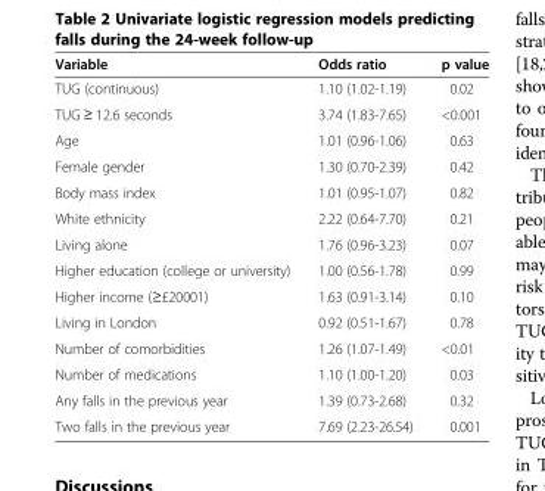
<table><thead><tr><td>Variable</td><td>Odds ratio</td><td>p value</td></tr></thead><tbody><tr><td>TUG (continuous)</td><td>1.10 (1.02-1.19)</td><td>0.02</td></tr><tr><td>TUG ≥ 12.6 seconds</td><td>3.74 (1.83-7.65)</td><td>&lt;0.001</td></tr><tr><td>Age</td><td>1.01 (0.96-1.06)</td><td>0.63</td></tr><tr><td>Female gender</td><td>1.30 (0.70-2.39)</td><td>0.42</td></tr><tr><td>Body mass index</td><td>1.01 (0.95-1.07)</td><td>0.82</td></tr><tr><td>White ethnicity</td><td>2.22 (0.64-7.70)</td><td>0.21</td></tr><tr><td>Living alone</td><td>1.76 (0.96-3.23)</td><td>0.07</td></tr><tr><td>Higher education (college or university)</td><td>1.00 (0.56-1.78)</td><td>0.99</td></tr><tr><td>Higher income (≥£20001)</td><td>1.63 (0.91-3.14)</td><td>0.10</td></tr><tr><td>Living in London</td><td>0.92 (0.51-1.67)</td><td>0.78</td></tr><tr><td>Number of comorbidities</td><td>1.26 (1.07-1.49)</td><td>&lt;0.01</td></tr><tr><td>Number of medications</td><td>1.10 (1.00-1.20)</td><td>0.03</td></tr><tr><td>Any falls in the previous year</td><td>1.39 (0.73-2.68)</td><td>0.32</td></tr><tr><td>Two falls in the previous year</td><td>7.69 (2.23-26.54)</td><td>0.001</td></tr></tbody></table>